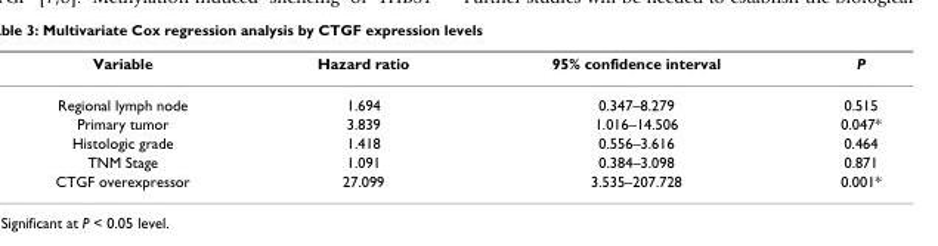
<table><thead><tr><td>Variable</td><td>Hazard ratio</td><td>95% confidence interval</td><td>P</td></tr></thead><tbody><tr><td>Regional lymph node</td><td>1.694</td><td>0.347–8.279</td><td>0.515</td></tr><tr><td>Primary tumor</td><td>3.839</td><td>1.016–14.506</td><td>0.047*</td></tr><tr><td>Histologic grade</td><td>1.418</td><td>0.556–3.616</td><td>0.464</td></tr><tr><td>TNM Stage</td><td>1.091</td><td>0.384–3.098</td><td>0.871</td></tr><tr><td>CTGF overexpressor</td><td>27.099</td><td>3.535–207.728</td><td>0.001*</td></tr></tbody></table>